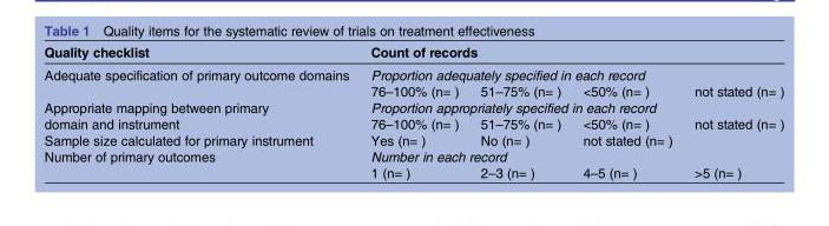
<table><thead><tr><td rowspan="3">Quality checklist Adequate specification of primary outcome domains</td><td rowspan="2" colspan="4">Count of records Proportion adequately specified in each record</td></tr><tr></tr><tr><td>76–100% (n= )</td><td>51–75% (n= )</td><td>&lt;50% (n= )</td><td>not stated (n= )</td></tr></thead><tbody><tr><td rowspan="2">Appropriate mapping between primary domain and instrument</td><td colspan="4">Proportion appropriately specified in each record</td></tr><tr><td>76–100% (n= )</td><td>51–75% (n= )</td><td>&lt;50% (n= )</td><td>not stated (n= )</td></tr><tr><td>Sample size calculated for primary instrument</td><td>Yes (n= )</td><td>No (n= )</td><td>not stated (n= )</td><td></td></tr><tr><td rowspan="2">Number of primary outcomes</td><td colspan="4">Number in each record</td></tr><tr><td>1 (n= )</td><td>2–3 (n= )</td><td>4–5 (n= )</td><td>&gt;5 (n= )</td></tr></tbody></table>